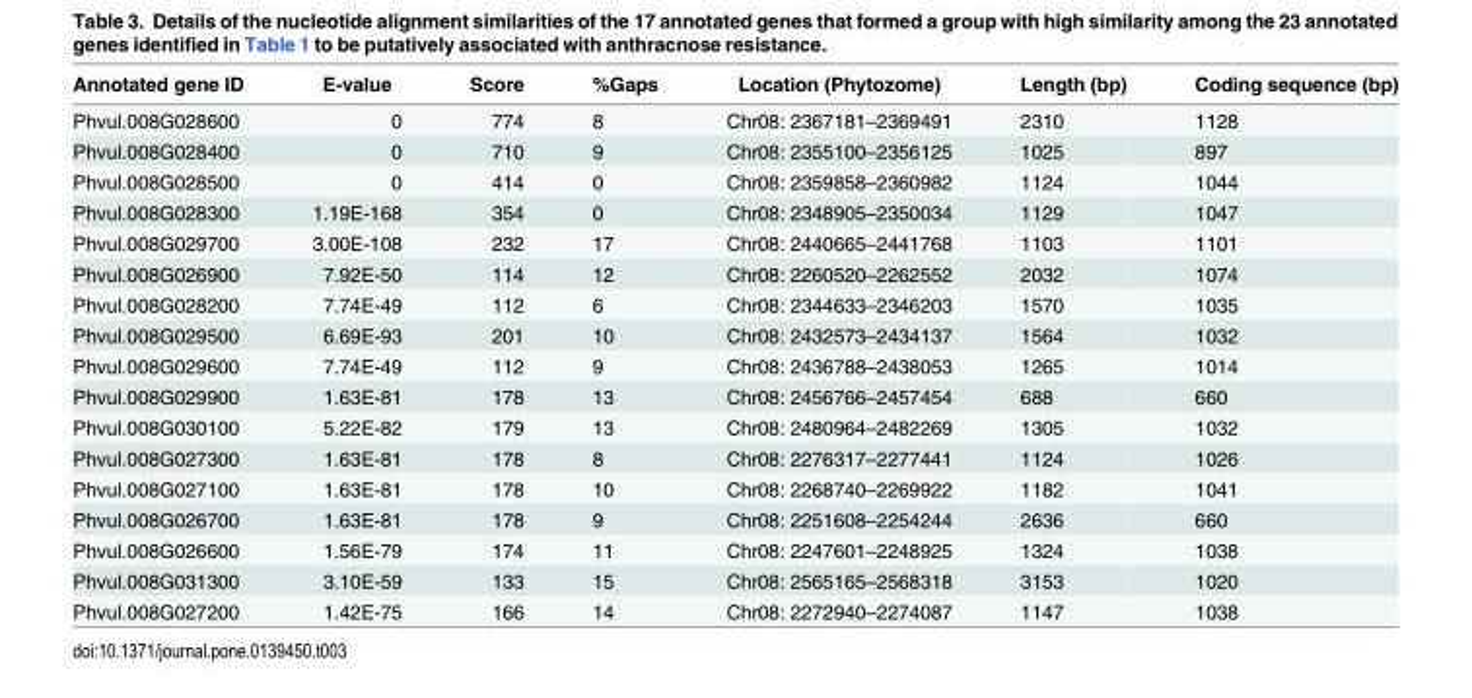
<table><thead><tr><td>Annotated gene ID</td><td>E-value</td><td>Score</td><td>%Gaps</td><td>Location (Phytozome)</td><td>Length (bp)</td><td>Coding sequence (bp)</td></tr></thead><tbody><tr><td>Phvul.008G028600</td><td>0</td><td>774</td><td>8</td><td>Chr08: 2367181–2369491</td><td>2310</td><td>1128</td></tr><tr><td>Phvul.008G028400</td><td>0</td><td>710</td><td>9</td><td>Chr08: 2355100–2356125</td><td>1025</td><td>897</td></tr><tr><td>Phvul.008G028500</td><td>0</td><td>414</td><td>0</td><td>Chr08: 2359858–2360982</td><td>1124</td><td>1044</td></tr><tr><td>Phvul.008G028300</td><td>1.19E-168</td><td>354</td><td>0</td><td>Chr08: 2348905–2350034</td><td>1129</td><td>1047</td></tr><tr><td>Phvul.008G029700</td><td>3.00E-108</td><td>232</td><td>17</td><td>Chr08: 2440665–2441768</td><td>1103</td><td>1101</td></tr><tr><td>Phvul.008G026900</td><td>7.92E-50</td><td>114</td><td>12</td><td>Chr08: 2260520–2262552</td><td>2032</td><td>1074</td></tr><tr><td>Phvul.008G028200</td><td>7.74E-49</td><td>112</td><td>6</td><td>Chr08: 2344633–2346203</td><td>1570</td><td>1035</td></tr><tr><td>Phvul.008G029500</td><td>6.69E-93</td><td>201</td><td>10</td><td>Chr08: 2432573–2434137</td><td>1564</td><td>1032</td></tr><tr><td>Phvul.008G029600</td><td>7.74E-49</td><td>112</td><td>9</td><td>Chr08: 2436788–2438053</td><td>1265</td><td>1014</td></tr><tr><td>Phvul.008G029900</td><td>1.63E-81</td><td>178</td><td>13</td><td>Chr08: 2456766–2457454</td><td>688</td><td>660</td></tr><tr><td>Phvul.008G030100</td><td>5.22E-82</td><td>179</td><td>13</td><td>Chr08: 2480964–2482269</td><td>1305</td><td>1032</td></tr><tr><td>Phvul.008G027300</td><td>1.63E-81</td><td>178</td><td>8</td><td>Chr08: 2276317–2277441</td><td>1124</td><td>1026</td></tr><tr><td>Phvul.008G027100</td><td>1.63E-81</td><td>178</td><td>10</td><td>Chr08: 2268740–2269922</td><td>1182</td><td>1041</td></tr><tr><td>Phvul.008G026700</td><td>1.63E-81</td><td>178</td><td>9</td><td>Chr08: 2251608–2254244</td><td>2636</td><td>660</td></tr><tr><td>Phvul.008G026600</td><td>1.56E-79</td><td>174</td><td>11</td><td>Chr08: 2247601–2248925</td><td>1324</td><td>1038</td></tr><tr><td>Phvul.008G031300</td><td>3.10E-59</td><td>133</td><td>15</td><td>Chr08: 2565165–2568318</td><td>3153</td><td>1020</td></tr><tr><td>Phvul.008G027200</td><td>1.42E-75</td><td>166</td><td>14</td><td>Chr08: 2272940–2274087</td><td>1147</td><td>1038</td></tr></tbody></table>